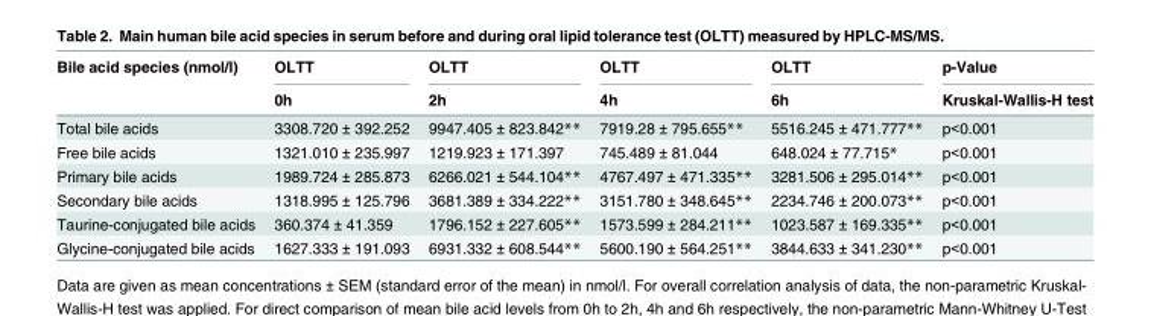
<table><thead><tr><td rowspan="2">Bile acid species (nmol/l)</td><td rowspan="2">OLTT 0h</td><td rowspan="2">OLTT 2h</td><td rowspan="2">OLTT 4h</td><td rowspan="2">OLTT 6h</td><td rowspan="2">p-Value Kruskal-Wallis-H test</td></tr><tr></tr></thead><tbody><tr><td>Total bile acids</td><td>3308.720 ± 392.252</td><td>9947.405 ± 823.842**</td><td>7919.28 ± 795.655**</td><td>5516.245 ± 471.777**</td><td>p&lt;0.001</td></tr><tr><td>Free bile acids</td><td>1321.010 ± 235.997</td><td>1219.923 ± 171.397</td><td>745.489 ± 81.044</td><td>648.024 ± 77.715*</td><td>p&lt;0.001</td></tr><tr><td>Primary bile acids</td><td>1989.724 ± 285.873</td><td>6266.021 ± 544.104**</td><td>4767.497 ± 471.335**</td><td>3281.506 ± 295.014**</td><td>p&lt;0.001</td></tr><tr><td>Secondary bile acids</td><td>1318.995 ± 125.796</td><td>3681.389 ± 334.222**</td><td>3151.780 ± 348.645**</td><td>2234.746 ± 200.073**</td><td>p&lt;0.001</td></tr><tr><td>Taurine-conjugated bile acids</td><td>360.374 ± 41.359</td><td>1796.152 ± 227.605**</td><td>1573.599 ± 284.211**</td><td>1023.587 ± 169.335**</td><td>p&lt;0.001</td></tr><tr><td>Glycine-conjugated bile acids</td><td>1627.333 ± 191.093</td><td>6931.332 ± 608.544**</td><td>5600.190 ± 564.251**</td><td>3844.633 ± 341.230**</td><td>p&lt;0.001</td></tr></tbody></table>